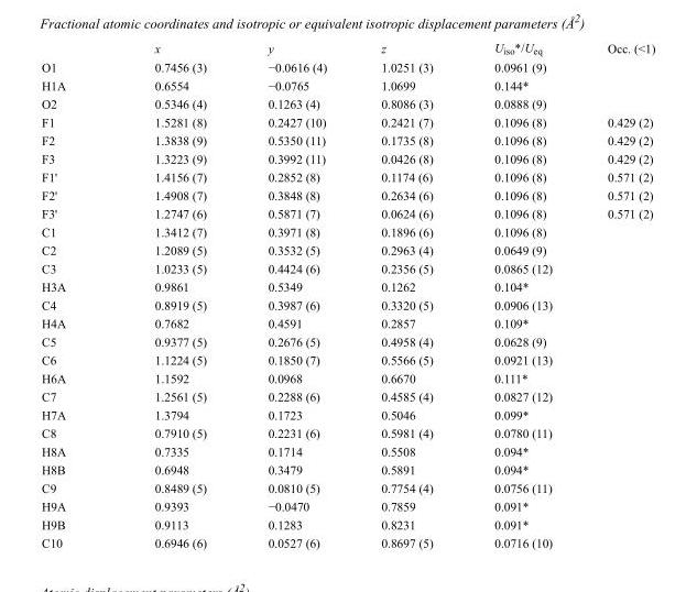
<table><thead><tr><td></td><td>x</td><td>y</td><td>z</td><td>U<sub>iso</sub>*/U<sub>eq</sub></td><td>Occ. (&lt;1)</td></tr></thead><tbody><tr><td>O1</td><td>0.7456 (3)</td><td>−0.0616 (4)</td><td>1.0251 (3)</td><td>0.0961 (9)</td><td></td></tr><tr><td>H1A</td><td>0.6554</td><td>−0.0765</td><td>1.0699</td><td>0.144*</td><td></td></tr><tr><td>O2</td><td>0.5346 (4)</td><td>0.1263 (4)</td><td>0.8086 (3)</td><td>0.0888 (9)</td><td></td></tr><tr><td>F1</td><td>1.5281 (8)</td><td>0.2427 (10)</td><td>0.2421 (7)</td><td>0.1096 (8)</td><td>0.429 (2)</td></tr><tr><td>F2</td><td>1.3838 (9)</td><td>0.5350 (11)</td><td>0.1735 (8)</td><td>0.1096 (8)</td><td>0.429 (2)</td></tr><tr><td>F3</td><td>1.3223 (9)</td><td>0.3992 (11)</td><td>0.0426 (8)</td><td>0.1096 (8)</td><td>0.429 (2)</td></tr><tr><td>F1&#x27;</td><td>1.4156 (7)</td><td>0.2852 (8)</td><td>0.1174 (6)</td><td>0.1096 (8)</td><td>0.571 (2)</td></tr><tr><td>F2&#x27;</td><td>1.4908 (7)</td><td>0.3848 (8)</td><td>0.2634 (6)</td><td>0.1096 (8)</td><td>0.571 (2)</td></tr><tr><td>F3&#x27;</td><td>1.2747 (6)</td><td>0.5871 (7)</td><td>0.0624 (6)</td><td>0.1096 (8)</td><td>0.571 (2)</td></tr><tr><td>C1</td><td>1.3412 (7)</td><td>0.3971 (8)</td><td>0.1896 (6)</td><td>0.1096 (8)</td><td></td></tr><tr><td>C2</td><td>1.2089 (5)</td><td>0.3532 (5)</td><td>0.2963 (4)</td><td>0.0649 (9)</td><td></td></tr><tr><td>C3</td><td>1.0233 (5)</td><td>0.4424 (6)</td><td>0.2356 (5)</td><td>0.0865 (12)</td><td></td></tr><tr><td>H3A</td><td>0.9861</td><td>0.5349</td><td>0.1262</td><td>0.104*</td><td></td></tr><tr><td>C4</td><td>0.8919 (5)</td><td>0.3987 (6)</td><td>0.3320 (5)</td><td>0.0906 (13)</td><td></td></tr><tr><td>H4A</td><td>0.7682</td><td>0.4591</td><td>0.2857</td><td>0.109*</td><td></td></tr><tr><td>C5</td><td>0.9377 (5)</td><td>0.2676 (5)</td><td>0.4958 (4)</td><td>0.0628 (9)</td><td></td></tr><tr><td>C6</td><td>1.1224 (5)</td><td>0.1850 (7)</td><td>0.5566 (5)</td><td>0.0921 (13)</td><td></td></tr><tr><td>H6A</td><td>1.1592</td><td>0.0968</td><td>0.6670</td><td>0.111*</td><td></td></tr><tr><td>C7</td><td>1.2561 (5)</td><td>0.2288 (6)</td><td>0.4585 (4)</td><td>0.0827 (12)</td><td></td></tr><tr><td>H7A</td><td>1.3794</td><td>0.1723</td><td>0.5046</td><td>0.099*</td><td></td></tr><tr><td>C8</td><td>0.7910 (5)</td><td>0.2231 (6)</td><td>0.5981 (4)</td><td>0.0780 (11)</td><td></td></tr><tr><td>H8A</td><td>0.7335</td><td>0.1714</td><td>0.5508</td><td>0.094*</td><td></td></tr><tr><td>H8B</td><td>0.6948</td><td>0.3479</td><td>0.5891</td><td>0.094*</td><td></td></tr><tr><td>C9</td><td>0.8489 (5)</td><td>0.0810 (5)</td><td>0.7754 (4)</td><td>0.0756 (11)</td><td></td></tr><tr><td>H9A</td><td>0.9393</td><td>−0.0470</td><td>0.7859</td><td>0.091*</td><td></td></tr><tr><td>H9B</td><td>0.9113</td><td>0.1283</td><td>0.8231</td><td>0.091*</td><td></td></tr><tr><td>C10</td><td>0.6946 (6)</td><td>0.0527 (6)</td><td>0.8697 (5)</td><td>0.0716 (10)</td><td></td></tr></tbody></table>